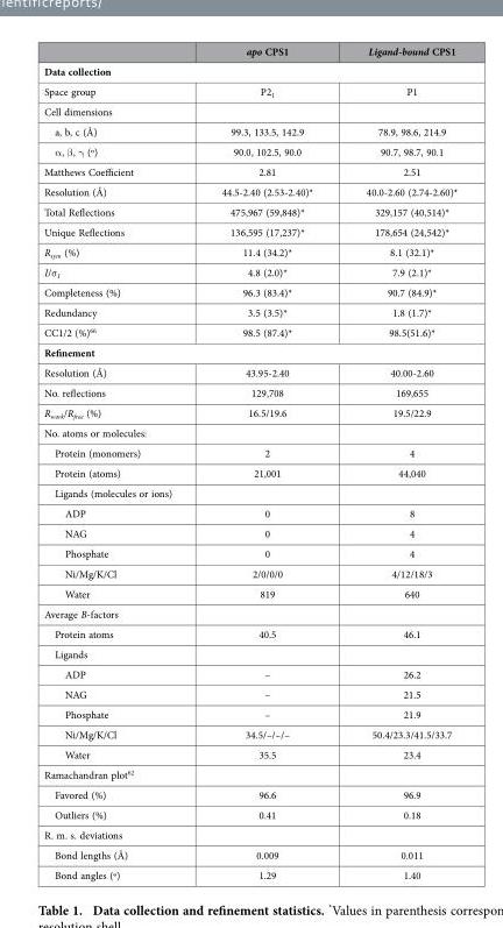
<table><thead><tr><td></td><td>apo CPS1</td><td>Ligand-bound CPS1</td></tr></thead><tbody><tr><td colspan="3">Data collection</td></tr><tr><td>Space group</td><td>P2<sub>1</sub></td><td>P1</td></tr><tr><td colspan="3">Cell dimensions</td></tr><tr><td>a, b, c (Å)</td><td>99.3, 133.5, 142.9</td><td>78.9, 98.6, 214.9</td></tr><tr><td>α , β , γ (º)</td><td>90.0, 102.5, 90.0</td><td>90.7, 98.7, 90.1</td></tr><tr><td>Matthews Coefficient</td><td>2.81</td><td>2.51</td></tr><tr><td>Resolution (Å)</td><td>44.5-2.40 (2.53-2.40)*</td><td>40.0-2.60 (2.74-2.60)*</td></tr><tr><td>Total Reflections</td><td>475,967 (59,848)*</td><td>329,157 (40,514)*</td></tr><tr><td>Unique Reflections</td><td>136,595 (17,237)*</td><td>178,654 (24,542)*</td></tr><tr><td>R<sub>sym</sub> (%)</td><td>11.4 (34.2)*</td><td>8.1 (32.1)*</td></tr><tr><td>I/σ <sub>I</sub></td><td>4.8 (2.0)*</td><td>7.9 (2.1)*</td></tr><tr><td>Completeness (%)</td><td>96.3 (83.4)*</td><td>90.7 (84.9)*</td></tr><tr><td>Redundancy</td><td>3.5 (3.5)*</td><td>1.8 (1.7)*</td></tr><tr><td>CC1/2 (%)<sup>66</sup></td><td>98.5 (87.4)*</td><td>98.5(51.6)*</td></tr><tr><td colspan="3">Refinement</td></tr><tr><td>Resolution (Å)</td><td>43.95-2.40</td><td>40.00-2.60</td></tr><tr><td>No. reflections</td><td>129,708</td><td>169,655</td></tr><tr><td>R<sub>work</sub>/R<sub>free</sub> (%)</td><td>16.5/19.6</td><td>19.5/22.9</td></tr><tr><td colspan="3">No. atoms or molecules:</td></tr><tr><td>Protein (monomers)</td><td>2</td><td>4</td></tr><tr><td>Protein (atoms)</td><td>21,001</td><td>44,040</td></tr><tr><td colspan="3">Ligands (molecules or ions)</td></tr><tr><td>ADP</td><td>0</td><td>8</td></tr><tr><td>NAG</td><td>0</td><td>4</td></tr><tr><td>Phosphate</td><td>0</td><td>4</td></tr><tr><td>Ni/Mg/K/Cl</td><td>2/0/0/0</td><td>4/12/18/3</td></tr><tr><td>Water</td><td>819</td><td>640</td></tr><tr><td colspan="3">Average B-factors</td></tr><tr><td>Protein atoms</td><td>40.5</td><td>46.1</td></tr><tr><td colspan="3">Ligands</td></tr><tr><td>ADP</td><td>–</td><td>26.2</td></tr><tr><td>NAG</td><td>–</td><td>21.5</td></tr><tr><td>Phosphate</td><td>–</td><td>21.9</td></tr><tr><td>Ni/Mg/K/Cl</td><td>34.5/–/–/–</td><td>50.4/23.3/41.5/33.7</td></tr><tr><td>Water</td><td>35.5</td><td>23.4</td></tr><tr><td colspan="3">Ramachandran plot<sup>62</sup></td></tr><tr><td>Favored (%)</td><td>96.6</td><td>96.9</td></tr><tr><td>Outliers (%)</td><td>0.41</td><td>0.18</td></tr><tr><td colspan="3">R. m. s. deviations</td></tr><tr><td>Bond lengths (Å)</td><td>0.009</td><td>0.011</td></tr><tr><td>Bond angles (º)</td><td>1.29</td><td>1.40</td></tr></tbody></table>